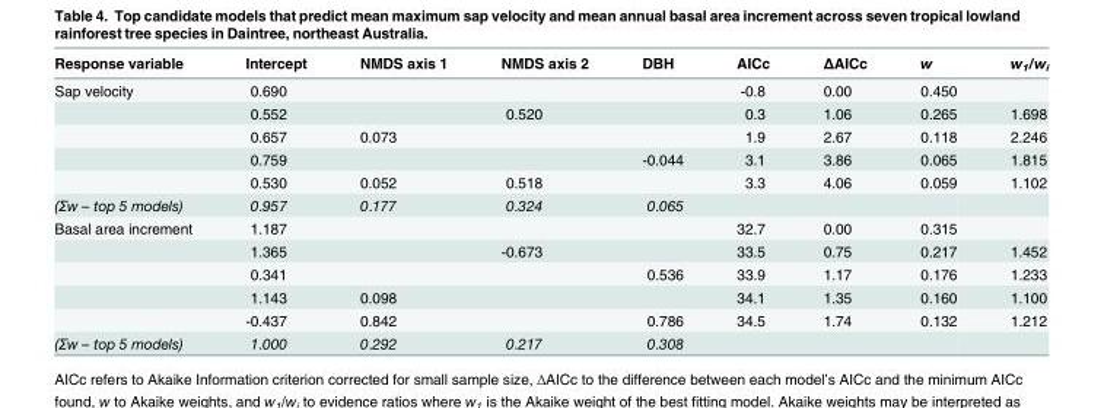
<table><thead><tr><td>Response variable</td><td>Intercept</td><td>NMDS axis 1</td><td>NMDS axis 2</td><td>DBH</td><td>AICc</td><td>ΔAICc</td><td>w</td><td>w<sub>1</sub>/w<sub>i</sub></td></tr></thead><tbody><tr><td rowspan="5">Sap velocity</td><td>0.690</td><td></td><td></td><td></td><td>-0.8</td><td>0.00</td><td>0.450</td><td></td></tr><tr><td>0.552</td><td></td><td>0.520</td><td></td><td>0.3</td><td>1.06</td><td>0.265</td><td>1.698</td></tr><tr><td>0.657</td><td>0.073</td><td></td><td></td><td>1.9</td><td>2.67</td><td>0.118</td><td>2.246</td></tr><tr><td>0.759</td><td></td><td></td><td>-0.044</td><td>3.1</td><td>3.86</td><td>0.065</td><td>1.815</td></tr><tr><td>0.530</td><td>0.052</td><td>0.518</td><td></td><td>3.3</td><td>4.06</td><td>0.059</td><td>1.102</td></tr><tr><td>(Σw – top 5 models)</td><td>0.957</td><td>0.177</td><td>0.324</td><td>0.065</td><td></td><td></td><td></td><td></td></tr><tr><td rowspan="5">Basal area increment</td><td>1.187</td><td></td><td></td><td></td><td>32.7</td><td>0.00</td><td>0.315</td><td></td></tr><tr><td>1.365</td><td></td><td>-0.673</td><td></td><td>33.5</td><td>0.75</td><td>0.217</td><td>1.452</td></tr><tr><td>0.341</td><td></td><td></td><td>0.536</td><td>33.9</td><td>1.17</td><td>0.176</td><td>1.233</td></tr><tr><td>1.143</td><td>0.098</td><td></td><td></td><td>34.1</td><td>1.35</td><td>0.160</td><td>1.100</td></tr><tr><td>-0.437</td><td>0.842</td><td></td><td>0.786</td><td>34.5</td><td>1.74</td><td>0.132</td><td>1.212</td></tr><tr><td>(Σw – top 5 models)</td><td>1.000</td><td>0.292</td><td>0.217</td><td>0.308</td><td></td><td></td><td></td><td></td></tr></tbody></table>